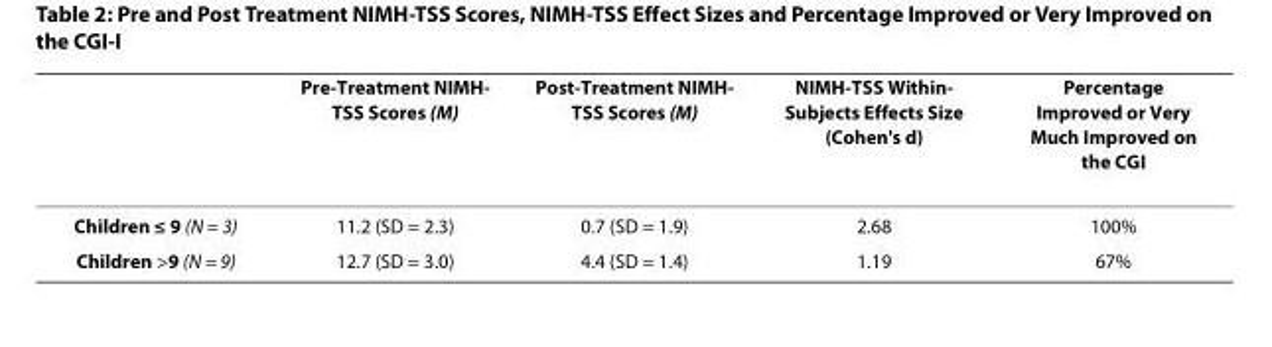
<table><thead><tr><td></td><td>Pre-Treatment NIMH- TSS Scores (M)</td><td>Post-Treatment NIMH- TSS Scores (M)</td><td>NIMH-TSS Within- Subjects Effects Size (Cohen&#x27;s d)</td><td>Percentage Improved or Very Much Improved on the CGI</td></tr></thead><tbody><tr><td>Children ≤ 9 (N = 3)</td><td>11.2 (SD = 2.3)</td><td>0.7 (SD = 1.9)</td><td>2.68</td><td>100%</td></tr><tr><td>Children &gt;9 (N = 9)</td><td>12.7 (SD = 3.0)</td><td>4.4 (SD = 1.4)</td><td>1.19</td><td>67%</td></tr></tbody></table>